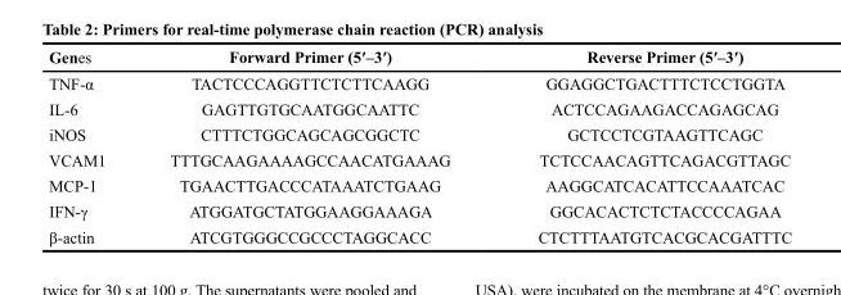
<table><thead><tr><td>Genes</td><td>Forward Primer (5′–3′)</td><td>Reverse Primer (5′–3′)</td></tr></thead><tbody><tr><td>TNF-α</td><td>TACTCCCAGGTTCTCTTCAAGG</td><td>GGAGGCTGACTTTCTCCTGGTA</td></tr><tr><td>IL-6</td><td>GAGTTGTGCAATGGCAATTC</td><td>ACTCCAGAAGACCAGAGCAG</td></tr><tr><td>iNOS</td><td>CTTTCTGGCAGCAGCGGCTC</td><td>GCTCCTCGTAAGTTCAGC</td></tr><tr><td>VCAM1</td><td>TTTGCAAGAAAAGCCAACATGAAAG</td><td>TCTCCAACAGTTCAGACGTTAGC</td></tr><tr><td>MCP-1</td><td>TGAACTTGACCCATAAATCTGAAG</td><td>AAGGCATCACATTCCAAATCAC</td></tr><tr><td>IFN-γ</td><td>ATGGATGCTATGGAAGGAAAGA</td><td>GGCACACTCTCTACCCCAGAA</td></tr><tr><td>β-actin</td><td>ATCGTGGGCCGCCCTAGGCACC</td><td>CTCTTTAATGTCACGCACGATTTC</td></tr></tbody></table>